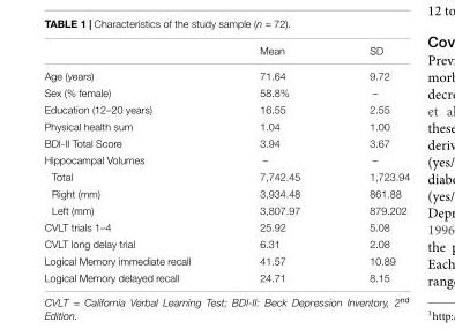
<table><thead><tr><td></td><td>Mean</td><td>SD</td></tr></thead><tbody><tr><td>Age (years)</td><td>71.64</td><td>9.72</td></tr><tr><td>Sex (% female)</td><td>58.8%</td><td>–</td></tr><tr><td>Education (12–20 years)</td><td>16.55</td><td>2.55</td></tr><tr><td>Physical health sum</td><td>1.04</td><td>1.00</td></tr><tr><td>BDI-II Total Score</td><td>3.94</td><td>3.67</td></tr><tr><td>Hippocampal Volumes</td><td>–</td><td>–</td></tr><tr><td>Total</td><td>7,742.45</td><td>1,723.94</td></tr><tr><td>Right (mm)</td><td>3,934.48</td><td>861.88</td></tr><tr><td>Left (mm)</td><td>3,807.97</td><td>879.202</td></tr><tr><td>CVLT trials 1–4</td><td>25.92</td><td>5.08</td></tr><tr><td>CVLT long delay trial</td><td>6.31</td><td>2.08</td></tr><tr><td>Logical Memory immediate recall</td><td>41.57</td><td>10.89</td></tr><tr><td>Logical Memory delayed recall</td><td>24.71</td><td>8.15</td></tr></tbody></table>